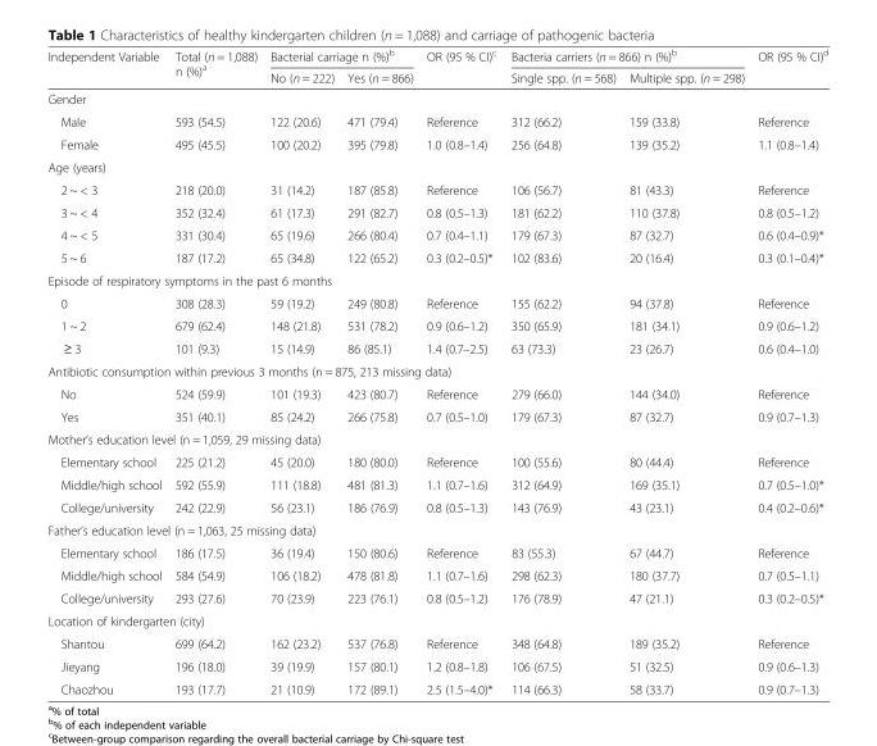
<table><thead><tr><td rowspan="2">Independent Variable</td><td rowspan="2">Total (n = 1,088) n (%)<sup>a</sup></td><td colspan="2">Bacterial carriage n (%)<sup>b</sup></td><td rowspan="2">OR (95 % CI)<sup>c</sup></td><td colspan="2">Bacteria carriers (n = 866) n (%)<sup>b</sup></td><td rowspan="2">OR (95 % CI)<sup>d</sup></td></tr><tr><td>No (n = 222)</td><td>Yes (n = 866)</td><td>Single spp. (n = 568)</td><td>Multiple spp. (n = 298)</td></tr></thead><tbody><tr><td colspan="8">Gender</td></tr><tr><td>Male</td><td>593 (54.5)</td><td>122 (20.6)</td><td>471 (79.4)</td><td>Reference</td><td>312 (66.2)</td><td>159 (33.8)</td><td>Reference</td></tr><tr><td>Female</td><td>495 (45.5)</td><td>100 (20.2)</td><td>395 (79.8)</td><td>1.0 (0.8–1.4)</td><td>256 (64.8)</td><td>139 (35.2)</td><td>1.1 (0.8–1.4)</td></tr><tr><td colspan="8">Age (years)</td></tr><tr><td>2 ~ &lt; 3</td><td>218 (20.0)</td><td>31 (14.2)</td><td>187 (85.8)</td><td>Reference</td><td>106 (56.7)</td><td>81 (43.3)</td><td>Reference</td></tr><tr><td>3 ~ &lt; 4</td><td>352 (32.4)</td><td>61 (17.3)</td><td>291 (82.7)</td><td>0.8 (0.5–1.3)</td><td>181 (62.2)</td><td>110 (37.8)</td><td>0.8 (0.5–1.2)</td></tr><tr><td>4 ~ &lt; 5</td><td>331 (30.4)</td><td>65 (19.6)</td><td>266 (80.4)</td><td>0.7 (0.4–1.1)</td><td>179 (67.3)</td><td>87 (32.7)</td><td>0.6 (0.4–0.9)*</td></tr><tr><td>5 ~ 6</td><td>187 (17.2)</td><td>65 (34.8)</td><td>122 (65.2)</td><td>0.3 (0.2–0.5)*</td><td>102 (83.6)</td><td>20 (16.4)</td><td>0.3 (0.1–0.4)*</td></tr><tr><td colspan="8">Episode of respiratory symptoms in the past 6 months</td></tr><tr><td>0</td><td>308 (28.3)</td><td>59 (19.2)</td><td>249 (80.8)</td><td>Reference</td><td>155 (62.2)</td><td>94 (37.8)</td><td>Reference</td></tr><tr><td>1 ~ 2</td><td>679 (62.4)</td><td>148 (21.8)</td><td>531 (78.2)</td><td>0.9 (0.6–1.2)</td><td>350 (65.9)</td><td>181 (34.1)</td><td>0.9 (0.6–1.2)</td></tr><tr><td>≥ 3</td><td>101 (9.3)</td><td>15 (14.9)</td><td>86 (85.1)</td><td>1.4 (0.7–2.5)</td><td>63 (73.3)</td><td>23 (26.7)</td><td>0.6 (0.4–1.0)</td></tr><tr><td colspan="8">Antibiotic consumption within previous 3 months (n = 875, 213 missing data)</td></tr><tr><td>No</td><td>524 (59.9)</td><td>101 (19.3)</td><td>423 (80.7)</td><td>Reference</td><td>279 (66.0)</td><td>144 (34.0)</td><td>Reference</td></tr><tr><td>Yes</td><td>351 (40.1)</td><td>85 (24.2)</td><td>266 (75.8)</td><td>0.7 (0.5–1.0)</td><td>179 (67.3)</td><td>87 (32.7)</td><td>0.9 (0.7–1.3)</td></tr><tr><td colspan="8">Mother’s education level (n = 1,059, 29 missing data)</td></tr><tr><td>Elementary school</td><td>225 (21.2)</td><td>45 (20.0)</td><td>180 (80.0)</td><td>Reference</td><td>100 (55.6)</td><td>80 (44.4)</td><td>Reference</td></tr><tr><td>Middle/high school</td><td>592 (55.9)</td><td>111 (18.8)</td><td>481 (81.3)</td><td>1.1 (0.7–1.6)</td><td>312 (64.9)</td><td>169 (35.1)</td><td>0.7 (0.5–1.0)*</td></tr><tr><td>College/university</td><td>242 (22.9)</td><td>56 (23.1)</td><td>186 (76.9)</td><td>0.8 (0.5–1.3)</td><td>143 (76.9)</td><td>43 (23.1)</td><td>0.4 (0.2–0.6)*</td></tr><tr><td colspan="8">Father’s education level (n = 1,063, 25 missing data)</td></tr><tr><td>Elementary school</td><td>186 (17.5)</td><td>36 (19.4)</td><td>150 (80.6)</td><td>Reference</td><td>83 (55.3)</td><td>67 (44.7)</td><td>Reference</td></tr><tr><td>Middle/high school</td><td>584 (54.9)</td><td>106 (18.2)</td><td>478 (81.8)</td><td>1.1 (0.7–1.6)</td><td>298 (62.3)</td><td>180 (37.7)</td><td>0.7 (0.5–1.1)</td></tr><tr><td>College/university</td><td>293 (27.6)</td><td>70 (23.9)</td><td>223 (76.1)</td><td>0.8 (0.5–1.2)</td><td>176 (78.9)</td><td>47 (21.1)</td><td>0.3 (0.2–0.5)*</td></tr><tr><td colspan="8">Location of kindergarten (city)</td></tr><tr><td>Shantou</td><td>699 (64.2)</td><td>162 (23.2)</td><td>537 (76.8)</td><td>Reference</td><td>348 (64.8)</td><td>189 (35.2)</td><td>Reference</td></tr><tr><td>Jieyang</td><td>196 (18.0)</td><td>39 (19.9)</td><td>157 (80.1)</td><td>1.2 (0.8–1.8)</td><td>106 (67.5)</td><td>51 (32.5)</td><td>0.9 (0.6–1.3)</td></tr><tr><td>Chaozhou</td><td>193 (17.7)</td><td>21 (10.9)</td><td>172 (89.1)</td><td>2.5 (1.5–4.0)*</td><td>114 (66.3)</td><td>58 (33.7)</td><td>0.9 (0.7–1.3)</td></tr></tbody></table>